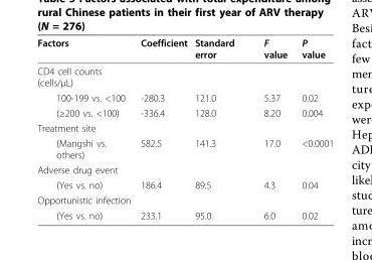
<table><thead><tr><td>Factors</td><td>Coefficient</td><td>Standard error</td><td>F value</td><td>P value</td></tr></thead><tbody><tr><td colspan="5">CD4 cell counts (cells/μL)</td></tr><tr><td>100-199 vs. &lt;100</td><td>-280.3</td><td>121.0</td><td>5.37</td><td>0.02</td></tr><tr><td>(≥200 vs. &lt;100)</td><td>-336.4</td><td>128.0</td><td>8.20</td><td>0.004</td></tr><tr><td colspan="5">Treatment site</td></tr><tr><td>(Mangshi vs. others)</td><td>582.5</td><td>141.3</td><td>17.0</td><td>&lt;0.0001</td></tr><tr><td colspan="5">Adverse drug event</td></tr><tr><td>(Yes vs. no)</td><td>186.4</td><td>89.5</td><td>4.3</td><td>0.04</td></tr><tr><td colspan="5">Opportunistic infection</td></tr><tr><td>(Yes vs. no)</td><td>233.1</td><td>95.0</td><td>6.0</td><td>0.02</td></tr></tbody></table>